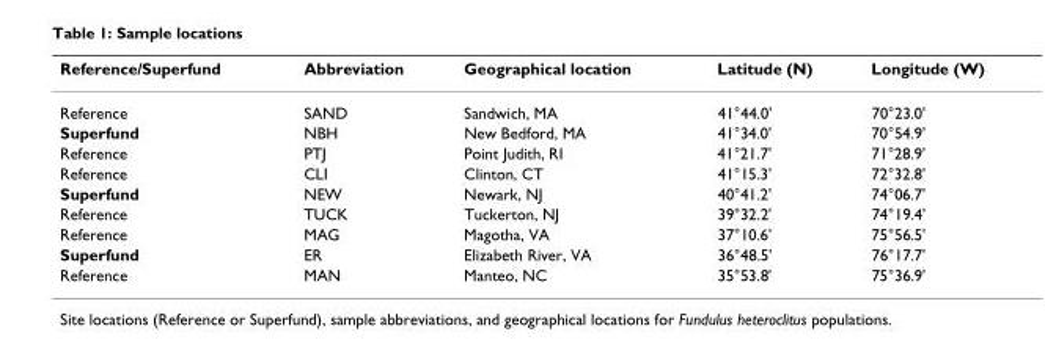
<table><thead><tr><td>Reference/Superfund</td><td>Abbreviation</td><td>Geographical location</td><td>Latitude (N)</td><td>Longitude (W)</td></tr></thead><tbody><tr><td>Reference</td><td>SAND</td><td>Sandwich, MA</td><td>41°44.0&#x27;</td><td>70°23.0&#x27;</td></tr><tr><td>Superfund</td><td>NBH</td><td>New Bedford, MA</td><td>41°34.0&#x27;</td><td>70°54.9&#x27;</td></tr><tr><td>Reference</td><td>PTJ</td><td>Point Judith, RI</td><td>41°21.7&#x27;</td><td>71°28.9&#x27;</td></tr><tr><td>Reference</td><td>CLI</td><td>Clinton, CT</td><td>41°15.3&#x27;</td><td>72°32.8&#x27;</td></tr><tr><td>Superfund</td><td>NEW</td><td>Newark, NJ</td><td>40°41.2&#x27;</td><td>74°06.7&#x27;</td></tr><tr><td>Reference</td><td>TUCK</td><td>Tuckerton, NJ</td><td>39°32.2&#x27;</td><td>74°19.4&#x27;</td></tr><tr><td>Reference</td><td>MAG</td><td>Magotha, VA</td><td>37°10.6&#x27;</td><td>75°56.5&#x27;</td></tr><tr><td>Superfund</td><td>ER</td><td>Elizabeth River, VA</td><td>36°48.5&#x27;</td><td>76°17.7&#x27;</td></tr><tr><td>Reference</td><td>MAN</td><td>Manteo, NC</td><td>35°53.8&#x27;</td><td>75°36.9&#x27;</td></tr></tbody></table>